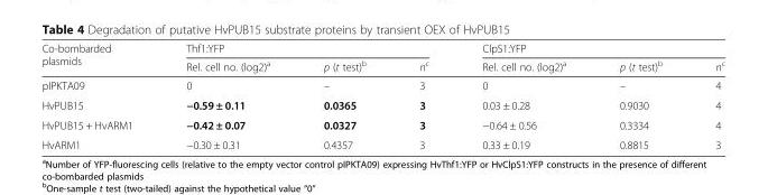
<table><thead><tr><td rowspan="2">Co-bombarded plasmids</td><td colspan="3">Thf1:YFP</td><td colspan="3">ClpS1:YFP</td></tr><tr><td>Rel. cell no. (log2)<sup>a</sup></td><td>p (t test)<sup>b</sup></td><td>n<sup>c</sup></td><td>Rel. cell no. (log2)<sup>a</sup></td><td>p (t test)<sup>b</sup></td><td>n<sup>c</sup></td></tr></thead><tbody><tr><td>pIPKTA09</td><td>0</td><td>–</td><td>3</td><td>0</td><td>–</td><td>4</td></tr><tr><td>HvPUB15</td><td>−0.59 ± 0.11</td><td>0.0365</td><td>3</td><td>0.03 ± 0.28</td><td>0.9030</td><td>4</td></tr><tr><td>HvPUB15 + HvARM1</td><td>−0.42 ± 0.07</td><td>0.0327</td><td>3</td><td>−0.64 ± 0.56</td><td>0.3334</td><td>4</td></tr><tr><td>HvARM1</td><td>−0.30 ± 0.31</td><td>0.4357</td><td>3</td><td>0.33 ± 0.19</td><td>0.8815</td><td>3</td></tr></tbody></table>